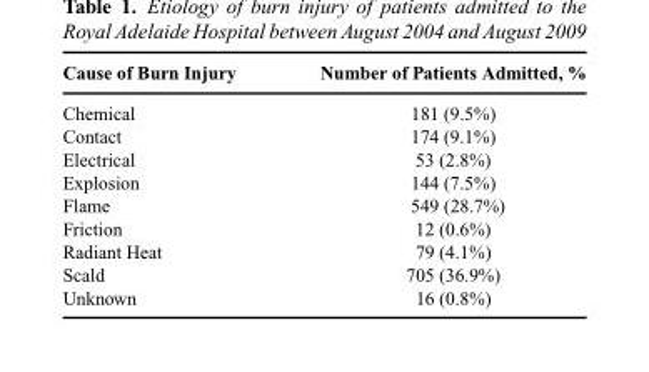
<table><thead><tr><td>Cause of Burn Injury</td><td>Number of Patients Admitted, %</td></tr></thead><tbody><tr><td>Chemical</td><td>181 (9.5%)</td></tr><tr><td>Contact</td><td>174 (9.1%)</td></tr><tr><td>Electrical</td><td>53 (2.8%)</td></tr><tr><td>Explosion</td><td>144 (7.5%)</td></tr><tr><td>Flame</td><td>549 (28.7%)</td></tr><tr><td>Friction</td><td>12 (0.6%)</td></tr><tr><td>Radiant Heat</td><td>79 (4.1%)</td></tr><tr><td>Scald</td><td>705 (36.9%)</td></tr><tr><td>Unknown</td><td>16 (0.8%)</td></tr></tbody></table>